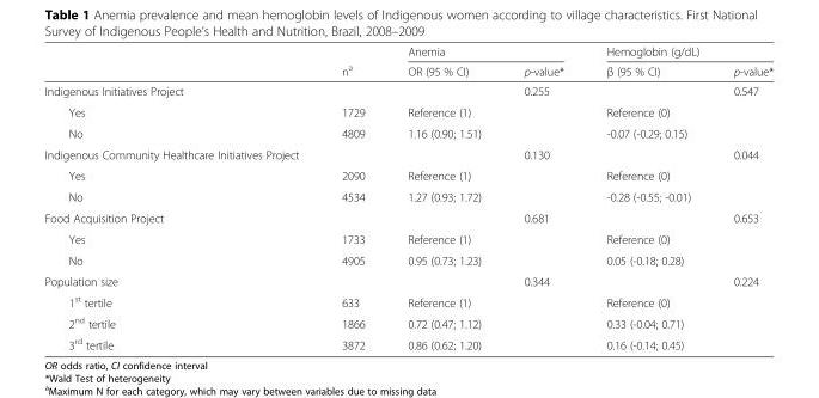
<table><thead><tr><td rowspan="2"></td><td rowspan="2">n<sup>a</sup></td><td colspan="2">Anemia</td><td colspan="2">Hemoglobin (g/dL)</td></tr><tr><td>OR (95 % CI)</td><td>p-value*</td><td>β (95 % CI)</td><td>p-value*</td></tr></thead><tbody><tr><td>Indigenous Initiatives Project</td><td></td><td></td><td>0.255</td><td></td><td>0.547</td></tr><tr><td>Yes</td><td>1729</td><td>Reference (1)</td><td></td><td>Reference (0)</td><td></td></tr><tr><td>No</td><td>4809</td><td>1.16 (0.90; 1.51)</td><td></td><td>-0.07 (-0.29; 0.15)</td><td></td></tr><tr><td>Indigenous Community Healthcare Initiatives Project</td><td></td><td></td><td>0.130</td><td></td><td>0.044</td></tr><tr><td>Yes</td><td>2090</td><td>Reference (1)</td><td></td><td>Reference (0)</td><td></td></tr><tr><td>No</td><td>4534</td><td>1.27 (0.93; 1.72)</td><td></td><td>-0.28 (-0.55; -0.01)</td><td></td></tr><tr><td>Food Acquisition Project</td><td></td><td></td><td>0.681</td><td></td><td>0.653</td></tr><tr><td>Yes</td><td>1733</td><td>Reference (1)</td><td></td><td>Reference (0)</td><td></td></tr><tr><td>No</td><td>4905</td><td>0.95 (0.73; 1.23)</td><td></td><td>0.05 (-0.18; 0.28)</td><td></td></tr><tr><td>Population size</td><td></td><td></td><td>0.344</td><td></td><td>0.224</td></tr><tr><td>1<sup>st</sup> tertile</td><td>633</td><td>Reference (1)</td><td></td><td>Reference (0)</td><td></td></tr><tr><td>2<sup>nd</sup> tertile</td><td>1866</td><td>0.72 (0.47; 1.12)</td><td></td><td>0.33 (-0.04; 0.71)</td><td></td></tr><tr><td>3<sup>rd</sup> tertile</td><td>3872</td><td>0.86 (0.62; 1.20)</td><td></td><td>0.16 (-0.14; 0.45)</td><td></td></tr></tbody></table>